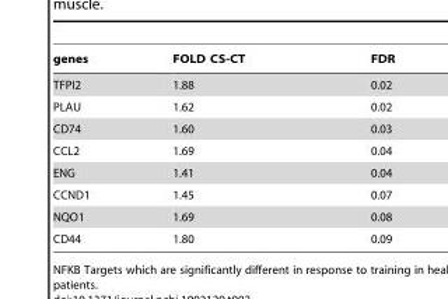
<table><thead><tr><td>genes</td><td>FOLD CS-CT</td><td>FDR</td></tr></thead><tbody><tr><td>TFPI2</td><td>1.88</td><td>0.02</td></tr><tr><td>PLAU</td><td>1.62</td><td>0.02</td></tr><tr><td>CD74</td><td>1.60</td><td>0.03</td></tr><tr><td>CCL2</td><td>1.69</td><td>0.04</td></tr><tr><td>ENG</td><td>1.41</td><td>0.04</td></tr><tr><td>CCND1</td><td>1.45</td><td>0.07</td></tr><tr><td>NQO1</td><td>1.69</td><td>0.08</td></tr><tr><td>CD44</td><td>1.80</td><td>0.09</td></tr></tbody></table>